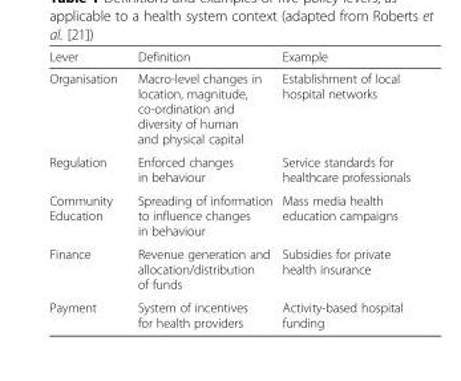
<table><thead><tr><td>Lever</td><td>Definition</td><td>Example</td></tr></thead><tbody><tr><td>Organisation</td><td>Macro-level changes in location, magnitude, co-ordination and diversity of human and physical capital</td><td>Establishment of local hospital networks</td></tr><tr><td>Regulation</td><td>Enforced changes in behaviour</td><td>Service standards for healthcare professionals</td></tr><tr><td>Community Education</td><td>Spreading of information to influence changes in behaviour</td><td>Mass media health education campaigns</td></tr><tr><td>Finance</td><td>Revenue generation and allocation/distribution of funds</td><td>Subsidies for private health insurance</td></tr><tr><td>Payment</td><td>System of incentives for health providers</td><td>Activity-based hospital funding</td></tr></tbody></table>